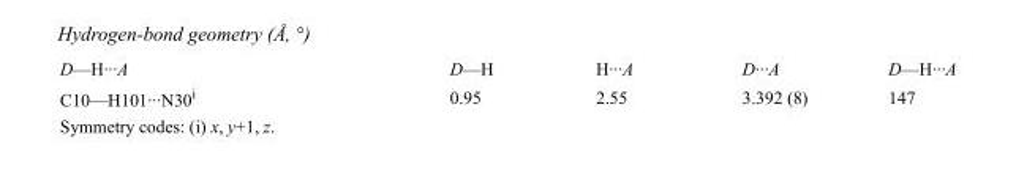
<table><tbody><tr><td>D—H···A</td><td>D—H</td><td>H···A</td><td>D···A</td><td>D—H···A</td></tr><tr><td>C10—H101···N30<sup>i</sup></td><td>0.95</td><td>2.55</td><td>3.392 (8)</td><td>147</td></tr></tbody></table>